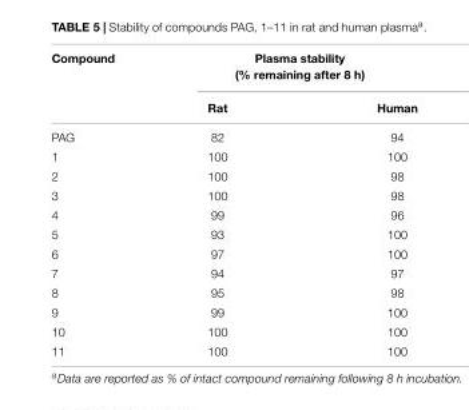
<table><thead><tr><td rowspan="2">Compound</td><td colspan="2">Plasma stability (% remaining after 8 h)</td></tr><tr><td>Rat</td><td>Human</td></tr></thead><tbody><tr><td>PAG</td><td>82</td><td>94</td></tr><tr><td>1</td><td>100</td><td>100</td></tr><tr><td>2</td><td>100</td><td>98</td></tr><tr><td>3</td><td>100</td><td>98</td></tr><tr><td>4</td><td>99</td><td>96</td></tr><tr><td>5</td><td>93</td><td>100</td></tr><tr><td>6</td><td>97</td><td>100</td></tr><tr><td>7</td><td>94</td><td>97</td></tr><tr><td>8</td><td>95</td><td>98</td></tr><tr><td>9</td><td>99</td><td>100</td></tr><tr><td>10</td><td>100</td><td>100</td></tr><tr><td>11</td><td>100</td><td>100</td></tr></tbody></table>